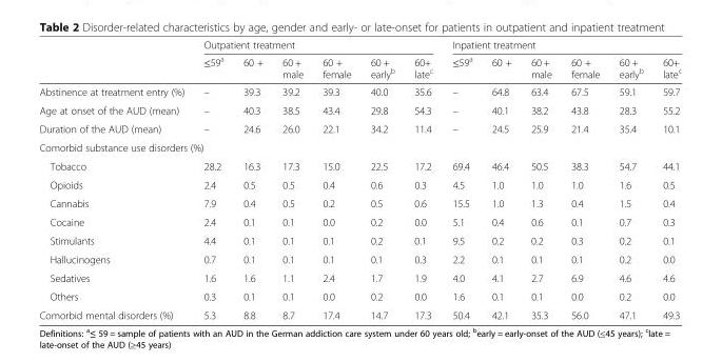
<table><thead><tr><td rowspan="2"></td><td colspan="6">Outpatient treatment</td><td colspan="6">Inpatient treatment</td></tr><tr><td>≤59<sup>a</sup></td><td>60 +</td><td>60 + male</td><td>60 + female</td><td>60 + early<sup>b</sup></td><td>60+ late<sup>c</sup></td><td>≤59<sup>a</sup></td><td>60 +</td><td>60 + male</td><td>60 + female</td><td>60 + early<sup>b</sup></td><td>60+ late<sup>c</sup></td></tr></thead><tbody><tr><td>Abstinence at treatment entry (%)</td><td>–</td><td>39.3</td><td>39.2</td><td>39.3</td><td>40.0</td><td>35.6</td><td>–</td><td>64.8</td><td>63.4</td><td>67.5</td><td>59.1</td><td>59.7</td></tr><tr><td>Age at onset of the AUD (mean)</td><td>–</td><td>40.3</td><td>38.5</td><td>43.4</td><td>29.8</td><td>54.3</td><td>–</td><td>40.1</td><td>38.2</td><td>43.8</td><td>28.3</td><td>55.2</td></tr><tr><td>Duration of the AUD (mean)</td><td>–</td><td>24.6</td><td>26.0</td><td>22.1</td><td>34.2</td><td>11.4</td><td>–</td><td>24.5</td><td>25.9</td><td>21.4</td><td>35.4</td><td>10.1</td></tr><tr><td colspan="13">Comorbid substance use disorders (%)</td></tr><tr><td>Tobacco</td><td>28.2</td><td>16.3</td><td>17.3</td><td>15.0</td><td>22.5</td><td>17.2</td><td>69.4</td><td>46.4</td><td>50.5</td><td>38.3</td><td>54.7</td><td>44.1</td></tr><tr><td>Opioids</td><td>2.4</td><td>0.5</td><td>0.5</td><td>0.4</td><td>0.6</td><td>0.3</td><td>4.5</td><td>1.0</td><td>1.0</td><td>1.0</td><td>1.6</td><td>0.5</td></tr><tr><td>Cannabis</td><td>7.9</td><td>0.4</td><td>0.5</td><td>0.2</td><td>0.5</td><td>0.6</td><td>15.5</td><td>1.0</td><td>1.3</td><td>0.4</td><td>1.5</td><td>0.4</td></tr><tr><td>Cocaine</td><td>2.4</td><td>0.1</td><td>0.1</td><td>0.0</td><td>0.2</td><td>0.0</td><td>5.1</td><td>0.4</td><td>0.6</td><td>0.1</td><td>0.7</td><td>0.3</td></tr><tr><td>Stimulants</td><td>4.4</td><td>0.1</td><td>0.1</td><td>0.1</td><td>0.2</td><td>0.1</td><td>9.5</td><td>0.2</td><td>0.2</td><td>0.3</td><td>0.2</td><td>0.1</td></tr><tr><td>Hallucinogens</td><td>0.7</td><td>0.1</td><td>0.1</td><td>0.1</td><td>0.1</td><td>0.3</td><td>2.2</td><td>0.1</td><td>0.1</td><td>0.1</td><td>0.2</td><td>0.0</td></tr><tr><td>Sedatives</td><td>1.6</td><td>1.6</td><td>1.1</td><td>2.4</td><td>1.7</td><td>1.9</td><td>4.0</td><td>4.1</td><td>2.7</td><td>6.9</td><td>4.6</td><td>4.6</td></tr><tr><td>Others</td><td>0.3</td><td>0.1</td><td>0.1</td><td>0.0</td><td>0.2</td><td>0.0</td><td>1.6</td><td>0.1</td><td>0.1</td><td>0.0</td><td>0.2</td><td>0.0</td></tr><tr><td>Comorbid mental disorders (%)</td><td>5.3</td><td>8.8</td><td>8.7</td><td>17.4</td><td>14.7</td><td>17.3</td><td>50.4</td><td>42.1</td><td>35.3</td><td>56.0</td><td>47.1</td><td>49.3</td></tr></tbody></table>